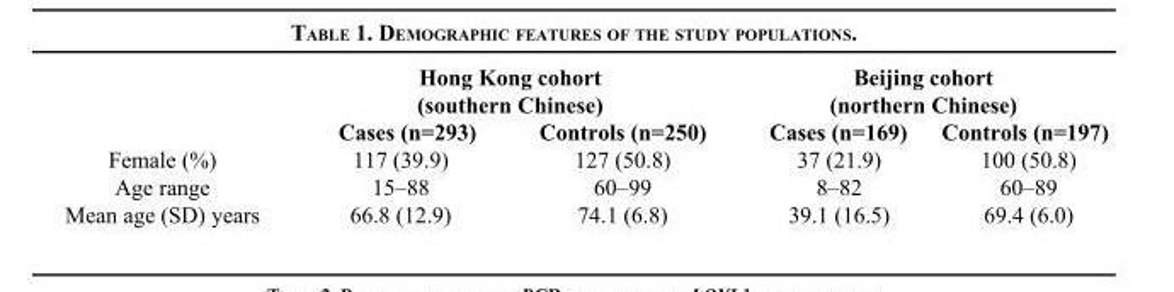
<table><thead><tr><td rowspan="2"></td><td colspan="2">Hong Kong cohort (southern Chinese)</td><td colspan="2">Beijing cohort (northern Chinese)</td></tr><tr><td>Cases (n=293)</td><td>Controls (n=250)</td><td>Cases (n=169)</td><td>Controls (n=197)</td></tr></thead><tbody><tr><td>Female (%)</td><td>117 (39.9)</td><td>127 (50.8)</td><td>37 (21.9)</td><td>100 (50.8)</td></tr><tr><td>Age range</td><td>15–88</td><td>60–99</td><td>8–82</td><td>60–89</td></tr><tr><td>Mean age (SD) years</td><td>66.8 (12.9)</td><td>74.1 (6.8)</td><td>39.1 (16.5)</td><td>69.4 (6.0)</td></tr></tbody></table>